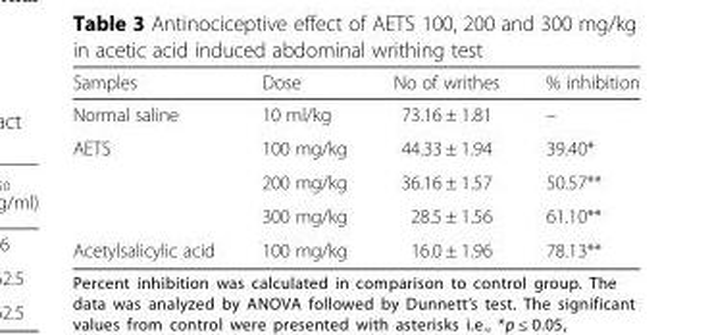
<table><thead><tr><td>Samples</td><td>Dose</td><td>No of writhes</td><td>% inhibition</td></tr></thead><tbody><tr><td>Normal saline</td><td>10 ml/kg</td><td>73.16 ± 1.81</td><td>–</td></tr><tr><td rowspan="3">AETS</td><td>100 mg/kg</td><td>44.33 ± 1.94</td><td>39.40*</td></tr><tr><td>200 mg/kg</td><td>36.16 ± 1.57</td><td>50.57**</td></tr><tr><td>300 mg/kg</td><td>28.5 ± 1.56</td><td>61.10**</td></tr><tr><td>Acetylsalicylic acid</td><td>100 mg/kg</td><td>16.0 ± 1.96</td><td>78.13**</td></tr></tbody></table>